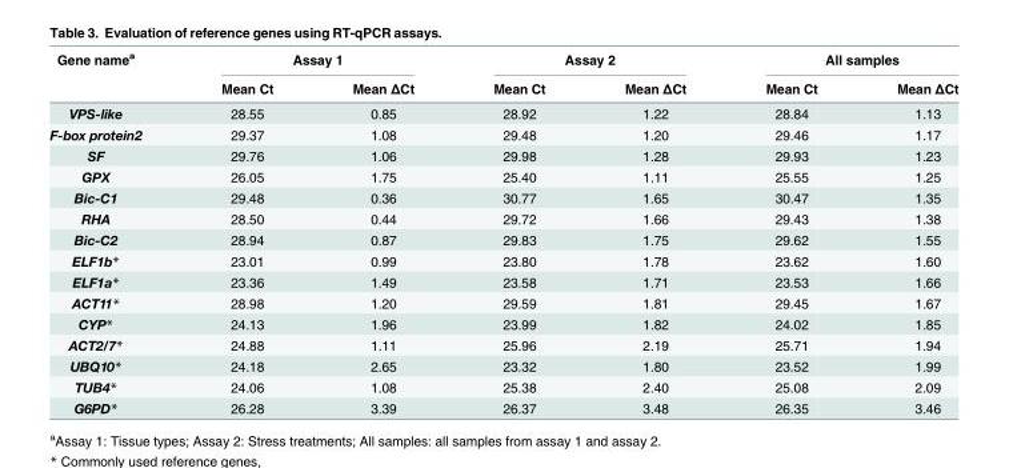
<table><thead><tr><td rowspan="2">Gene name<sup>a</sup></td><td colspan="2">Assay 1</td><td colspan="2">Assay 2</td><td colspan="2">All samples</td></tr><tr><td>Mean Ct</td><td>Mean ΔCt</td><td>Mean Ct</td><td>Mean ΔCt</td><td>Mean Ct</td><td>Mean ΔCt</td></tr></thead><tbody><tr><td>VPS-like</td><td>28.55</td><td>0.85</td><td>28.92</td><td>1.22</td><td>28.84</td><td>1.13</td></tr><tr><td>F-box protein2</td><td>29.37</td><td>1.08</td><td>29.48</td><td>1.20</td><td>29.46</td><td>1.17</td></tr><tr><td>SF</td><td>29.76</td><td>1.06</td><td>29.98</td><td>1.28</td><td>29.93</td><td>1.23</td></tr><tr><td>GPX</td><td>26.05</td><td>1.75</td><td>25.40</td><td>1.11</td><td>25.55</td><td>1.25</td></tr><tr><td>Bic-C1</td><td>29.48</td><td>0.36</td><td>30.77</td><td>1.65</td><td>30.47</td><td>1.35</td></tr><tr><td>RHA</td><td>28.50</td><td>0.44</td><td>29.72</td><td>1.66</td><td>29.43</td><td>1.38</td></tr><tr><td>Bic-C2</td><td>28.94</td><td>0.87</td><td>29.83</td><td>1.75</td><td>29.62</td><td>1.55</td></tr><tr><td>ELF1b*</td><td>23.01</td><td>0.99</td><td>23.80</td><td>1.78</td><td>23.62</td><td>1.60</td></tr><tr><td>ELF1a*</td><td>23.36</td><td>1.49</td><td>23.58</td><td>1.71</td><td>23.53</td><td>1.66</td></tr><tr><td>ACT11*</td><td>28.98</td><td>1.20</td><td>29.59</td><td>1.81</td><td>29.45</td><td>1.67</td></tr><tr><td>CYP*</td><td>24.13</td><td>1.96</td><td>23.99</td><td>1.82</td><td>24.02</td><td>1.85</td></tr><tr><td>ACT2/7*</td><td>24.88</td><td>1.11</td><td>25.96</td><td>2.19</td><td>25.71</td><td>1.94</td></tr><tr><td>UBQ10*</td><td>24.18</td><td>2.65</td><td>23.32</td><td>1.80</td><td>23.52</td><td>1.99</td></tr><tr><td>TUB4*</td><td>24.06</td><td>1.08</td><td>25.38</td><td>2.40</td><td>25.08</td><td>2.09</td></tr><tr><td>G6PD*</td><td>26.28</td><td>3.39</td><td>26.37</td><td>3.48</td><td>26.35</td><td>3.46</td></tr></tbody></table>